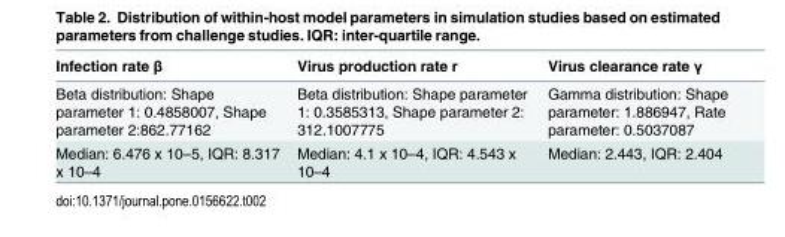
<table><thead><tr><td>Infection rate β</td><td>Virus production rate r</td><td>Virus clearance rate γ</td></tr></thead><tbody><tr><td>Beta distribution: Shape parameter 1: 0.4858007, Shape parameter 2:862.77162</td><td>Beta distribution: Shape parameter 1: 0.3585313, Shape parameter 2: 312.1007775</td><td>Gamma distribution: Shape parameter: 1.886947, Rate parameter: 0.5037087</td></tr><tr><td>Median: 6.476 x 10–5, IQR: 8.317 x 10–4</td><td>Median: 4.1 x 10–4, IQR: 4.543 x 10–4</td><td>Median: 2.443, IQR: 2.404</td></tr></tbody></table>